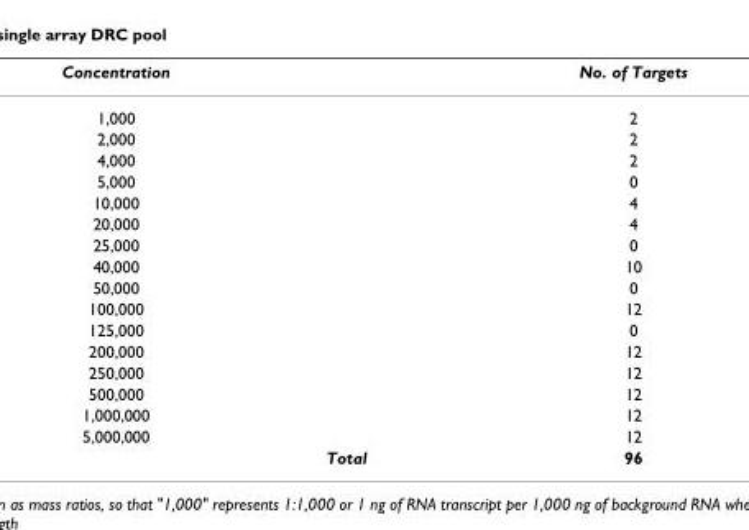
<table><thead><tr><td>Concentration</td><td>No. of Targets</td></tr></thead><tbody><tr><td>1,000</td><td>2</td></tr><tr><td>2,000</td><td>2</td></tr><tr><td>4,000</td><td>2</td></tr><tr><td>5,000</td><td>0</td></tr><tr><td>10,000</td><td>4</td></tr><tr><td>20,000</td><td>4</td></tr><tr><td>25,000</td><td>0</td></tr><tr><td>40,000</td><td>10</td></tr><tr><td>50,000</td><td>0</td></tr><tr><td>100,000</td><td>12</td></tr><tr><td>125,000</td><td>0</td></tr><tr><td>200,000</td><td>12</td></tr><tr><td>250,000</td><td>12</td></tr><tr><td>500,000</td><td>12</td></tr><tr><td>1,000,000</td><td>12</td></tr><tr><td>5,000,000</td><td>12</td></tr><tr><td>Total</td><td>96</td></tr></tbody></table>